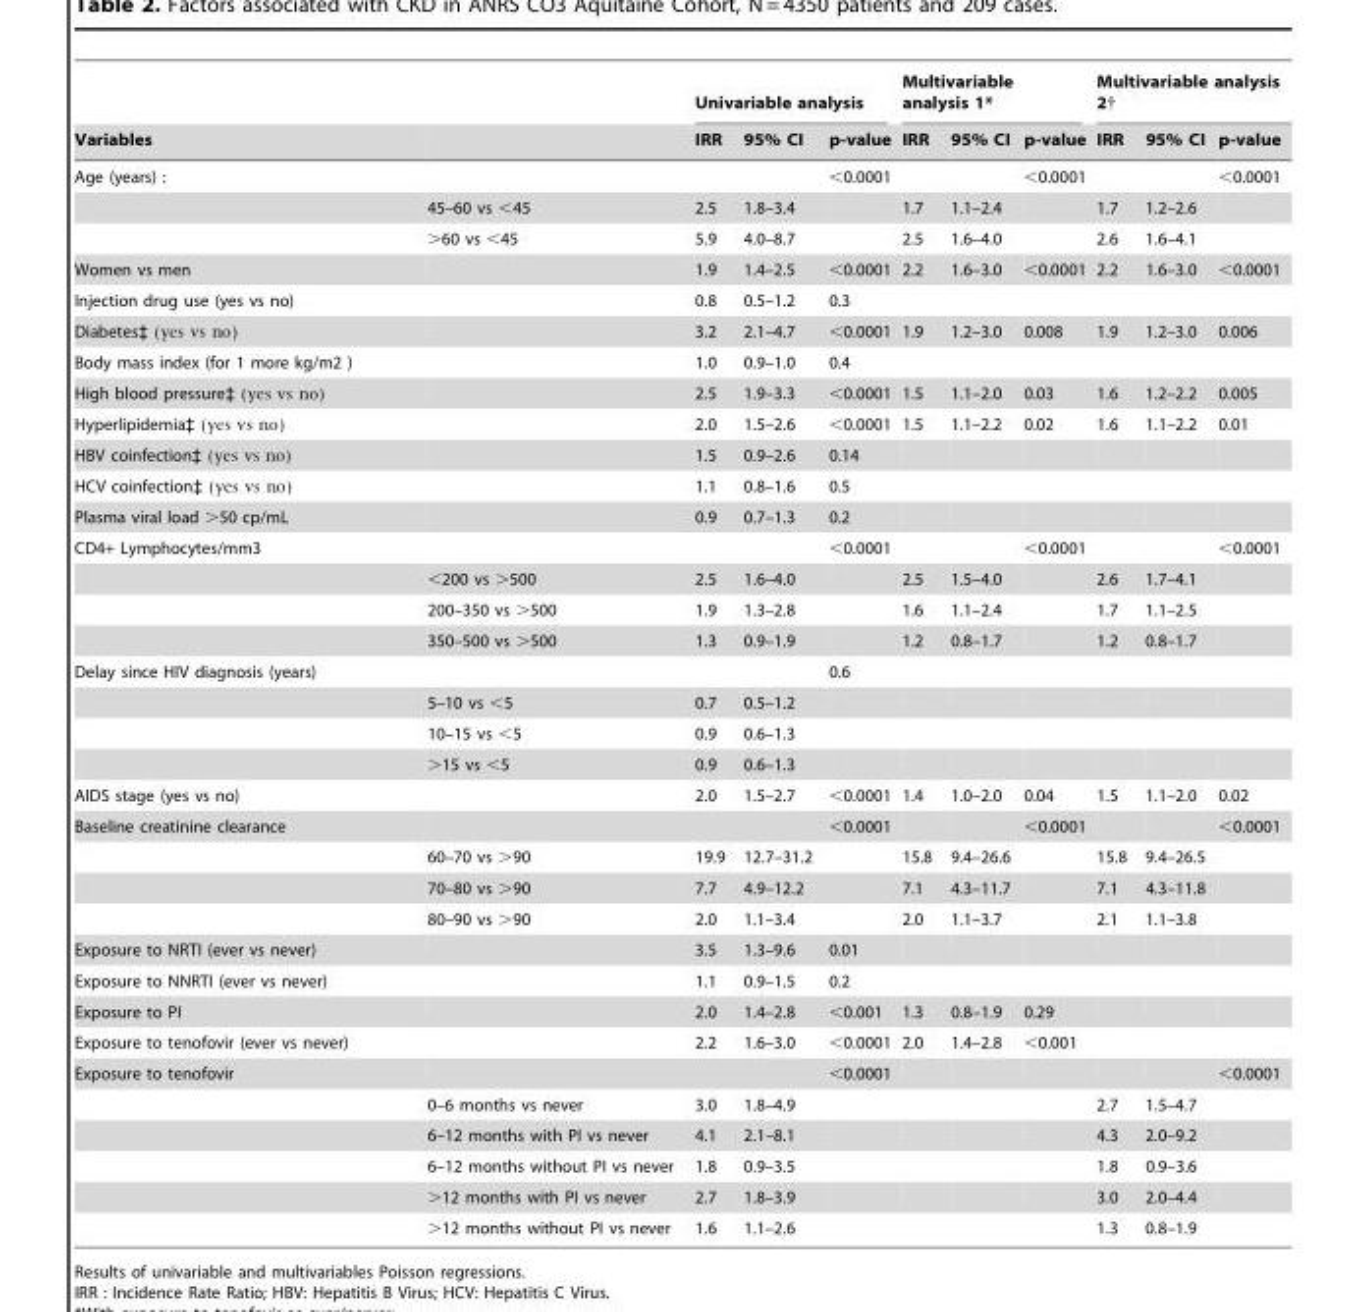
<table><thead><tr><td rowspan="2">Variables</td><td rowspan="2"></td><td colspan="3">Univariable analysis</td><td colspan="3">Multivariable analysis 1*</td><td colspan="3">Multivariable analysis 2†</td></tr><tr><td>IRR</td><td>95% CI</td><td>p-value</td><td>IRR</td><td>95% CI</td><td>p-value</td><td>IRR</td><td>95% CI</td><td>p-value</td></tr></thead><tbody><tr><td rowspan="3">Age (years) :</td><td></td><td></td><td></td><td>&lt;0.0001</td><td></td><td></td><td>&lt;0.0001</td><td></td><td></td><td>&lt;0.0001</td></tr><tr><td>45–60 vs &lt;45</td><td>2.5</td><td>1.8–3.4</td><td></td><td>1.7</td><td>1.1–2.4</td><td></td><td>1.7</td><td>1.2–2.6</td><td></td></tr><tr><td>&gt;60 vs &lt;45</td><td>5.9</td><td>4.0–8.7</td><td></td><td>2.5</td><td>1.6–4.0</td><td></td><td>2.6</td><td>1.6–4.1</td><td></td></tr><tr><td>Women vs men</td><td></td><td>1.9</td><td>1.4–2.5</td><td>&lt;0.0001</td><td>2.2</td><td>1.6–3.0</td><td>&lt;0.0001</td><td>2.2</td><td>1.6–3.0</td><td>&lt;0.0001</td></tr><tr><td>Injection drug use (yes vs no)</td><td></td><td>0.8</td><td>0.5–1.2</td><td>0.3</td><td></td><td></td><td></td><td></td><td></td><td></td></tr><tr><td>Diabetes‡ (yes vs no)</td><td></td><td>3.2</td><td>2.1–4.7</td><td>&lt;0.0001</td><td>1.9</td><td>1.2–3.0</td><td>0.008</td><td>1.9</td><td>1.2–3.0</td><td>0.006</td></tr><tr><td>Body mass index (for 1 more kg/m2 )</td><td></td><td>1.0</td><td>0.9–1.0</td><td>0.4</td><td></td><td></td><td></td><td></td><td></td><td></td></tr><tr><td>High blood pressure‡ (yes vs no)</td><td></td><td>2.5</td><td>1.9–3.3</td><td>&lt;0.0001</td><td>1.5</td><td>1.1–2.0</td><td>0.03</td><td>1.6</td><td>1.2–2.2</td><td>0.005</td></tr><tr><td>Hyperlipidemia‡ (yes vs no)</td><td></td><td>2.0</td><td>1.5–2.6</td><td>&lt;0.0001</td><td>1.5</td><td>1.1–2.2</td><td>0.02</td><td>1.6</td><td>1.1–2.2</td><td>0.01</td></tr><tr><td>HBV coinfection‡ (yes vs no)</td><td></td><td>1.5</td><td>0.9–2.6</td><td>0.14</td><td></td><td></td><td></td><td></td><td></td><td></td></tr><tr><td>HCV coinfection‡ (yes vs no)</td><td></td><td>1.1</td><td>0.8–1.6</td><td>0.5</td><td></td><td></td><td></td><td></td><td></td><td></td></tr><tr><td>Plasma viral load &gt;50 cp/mL</td><td></td><td>0.9</td><td>0.7–1.3</td><td>0.2</td><td></td><td></td><td></td><td></td><td></td><td></td></tr><tr><td rowspan="4">CD4+ Lymphocytes/mm3</td><td></td><td></td><td></td><td>&lt;0.0001</td><td></td><td></td><td>&lt;0.0001</td><td></td><td></td><td>&lt;0.0001</td></tr><tr><td>&lt;200 vs &gt;500</td><td>2.5</td><td>1.6–4.0</td><td></td><td>2.5</td><td>1.5–4.0</td><td></td><td>2.6</td><td>1.7–4.1</td><td></td></tr><tr><td>200–350 vs &gt;500</td><td>1.9</td><td>1.3–2.8</td><td></td><td>1.6</td><td>1.1–2.4</td><td></td><td>1.7</td><td>1.1–2.5</td><td></td></tr><tr><td>350–500 vs &gt;500</td><td>1.3</td><td>0.9–1.9</td><td></td><td>1.2</td><td>0.8–1.7</td><td></td><td>1.2</td><td>0.8–1.7</td><td></td></tr><tr><td rowspan="4">Delay since HIV diagnosis (years)</td><td></td><td></td><td></td><td>0.6</td><td></td><td></td><td></td><td></td><td></td><td></td></tr><tr><td>5–10 vs &lt;5</td><td>0.7</td><td>0.5–1.2</td><td></td><td></td><td></td><td></td><td></td><td></td><td></td></tr><tr><td>10–15 vs &lt;5</td><td>0.9</td><td>0.6–1.3</td><td></td><td></td><td></td><td></td><td></td><td></td><td></td></tr><tr><td>&gt;15 vs &lt;5</td><td>0.9</td><td>0.6–1.3</td><td></td><td></td><td></td><td></td><td></td><td></td><td></td></tr><tr><td>AIDS stage (yes vs no)</td><td></td><td>2.0</td><td>1.5–2.7</td><td>&lt;0.0001</td><td>1.4</td><td>1.0–2.0</td><td>0.04</td><td>1.5</td><td>1.1–2.0</td><td>0.02</td></tr><tr><td rowspan="4">Baseline creatinine clearance</td><td></td><td></td><td></td><td>&lt;0.0001</td><td></td><td></td><td>&lt;0.0001</td><td></td><td></td><td>&lt;0.0001</td></tr><tr><td>60–70 vs &gt;90</td><td>19.9</td><td>12.7–31.2</td><td></td><td>15.8</td><td>9.4–26.6</td><td></td><td>15.8</td><td>9.4–26.5</td><td></td></tr><tr><td>70–80 vs &gt;90</td><td>7.7</td><td>4.9–12.2</td><td></td><td>7.1</td><td>4.3–11.7</td><td></td><td>7.1</td><td>4.3–11.8</td><td></td></tr><tr><td>80–90 vs &gt;90</td><td>2.0</td><td>1.1–3.4</td><td></td><td>2.0</td><td>1.1–3.7</td><td></td><td>2.1</td><td>1.1–3.8</td><td></td></tr><tr><td>Exposure to NRTI (ever vs never)</td><td></td><td>3.5</td><td>1.3–9.6</td><td>0.01</td><td></td><td></td><td></td><td></td><td></td><td></td></tr><tr><td>Exposure to NNRTI (ever vs never)</td><td></td><td>1.1</td><td>0.9–1.5</td><td>0.2</td><td></td><td></td><td></td><td></td><td></td><td></td></tr><tr><td>Exposure to PI</td><td></td><td>2.0</td><td>1.4–2.8</td><td>&lt;0.001</td><td>1.3</td><td>0.8–1.9</td><td>0.29</td><td></td><td></td><td></td></tr><tr><td>Exposure to tenofovir (ever vs never)</td><td></td><td>2.2</td><td>1.6–3.0</td><td>&lt;0.0001</td><td>2.0</td><td>1.4–2.8</td><td>&lt;0.001</td><td></td><td></td><td></td></tr><tr><td rowspan="6">Exposure to tenofovir</td><td></td><td></td><td></td><td>&lt;0.0001</td><td></td><td></td><td></td><td></td><td></td><td>&lt;0.0001</td></tr><tr><td>0–6 months vs never</td><td>3.0</td><td>1.8–4.9</td><td></td><td></td><td></td><td></td><td>2.7</td><td>1.5–4.7</td><td></td></tr><tr><td>6–12 months with PI vs never</td><td>4.1</td><td>2.1–8.1</td><td></td><td></td><td></td><td></td><td>4.3</td><td>2.0–9.2</td><td></td></tr><tr><td>6–12 months without PI vs never</td><td>1.8</td><td>0.9–3.5</td><td></td><td></td><td></td><td></td><td>1.8</td><td>0.9–3.6</td><td></td></tr><tr><td>&gt;12 months with PI vs never</td><td>2.7</td><td>1.8–3.9</td><td></td><td></td><td></td><td></td><td>3.0</td><td>2.0–4.4</td><td></td></tr><tr><td>&gt;12 months without PI vs never</td><td>1.6</td><td>1.1–2.6</td><td></td><td></td><td></td><td></td><td>1.3</td><td>0.8–1.9</td><td></td></tr></tbody></table>